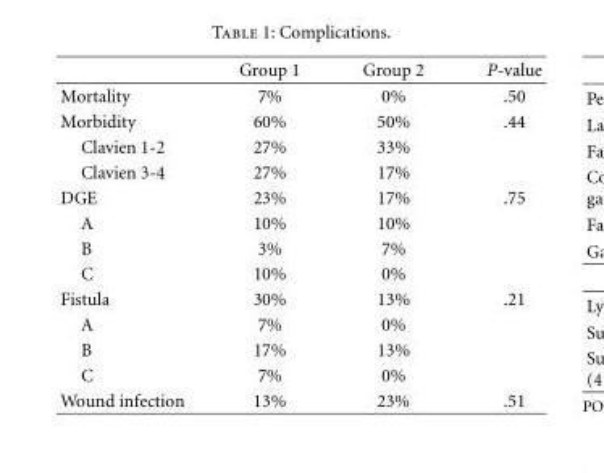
<table><thead><tr><td></td><td>Group 1</td><td>Group 2</td><td>P-value</td></tr></thead><tbody><tr><td>Mortality</td><td>7%</td><td>0%</td><td>.50</td></tr><tr><td>Morbidity</td><td>60%</td><td>50%</td><td>.44</td></tr><tr><td>Clavien 1-2</td><td>27%</td><td>33%</td><td></td></tr><tr><td>Clavien 3-4</td><td>27%</td><td>17%</td><td></td></tr><tr><td>DGE</td><td>23%</td><td>17%</td><td>.75</td></tr><tr><td>A</td><td>10%</td><td>10%</td><td></td></tr><tr><td>B</td><td>3%</td><td>7%</td><td></td></tr><tr><td>C</td><td>10%</td><td>0%</td><td></td></tr><tr><td>Fistula</td><td>30%</td><td>13%</td><td>.21</td></tr><tr><td>A</td><td>7%</td><td>0%</td><td></td></tr><tr><td>B</td><td>17%</td><td>13%</td><td></td></tr><tr><td>C</td><td>7%</td><td>0%</td><td></td></tr><tr><td>Wound infection</td><td>13%</td><td>23%</td><td>.51</td></tr></tbody></table>